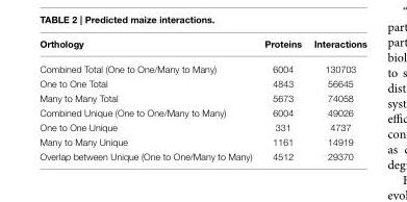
<table><thead><tr><td>Orthology</td><td>Proteins</td><td>Interactions</td></tr></thead><tbody><tr><td>Combined Total (One to One/Many to Many)</td><td>6004</td><td>130703</td></tr><tr><td>One to One Total</td><td>4843</td><td>56645</td></tr><tr><td>Many to Many Total</td><td>5673</td><td>74058</td></tr><tr><td>Combined Unique (One to One/Many to Many)</td><td>6004</td><td>49026</td></tr><tr><td>One to One Unique</td><td>331</td><td>4737</td></tr><tr><td>Many to Many Unique</td><td>1161</td><td>14919</td></tr><tr><td>Overlap between Unique (One to One/Many to Many)</td><td>4512</td><td>29370</td></tr></tbody></table>